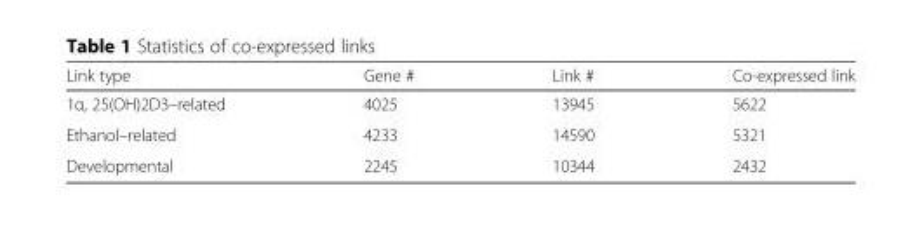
<table><thead><tr><td>Link type</td><td>Gene #</td><td>Link #</td><td>Co-expressed link</td></tr></thead><tbody><tr><td>1α, 25(OH)2D3–related</td><td>4025</td><td>13945</td><td>5622</td></tr><tr><td>Ethanol–related</td><td>4233</td><td>14590</td><td>5321</td></tr><tr><td>Developmental</td><td>2245</td><td>10344</td><td>2432</td></tr></tbody></table>